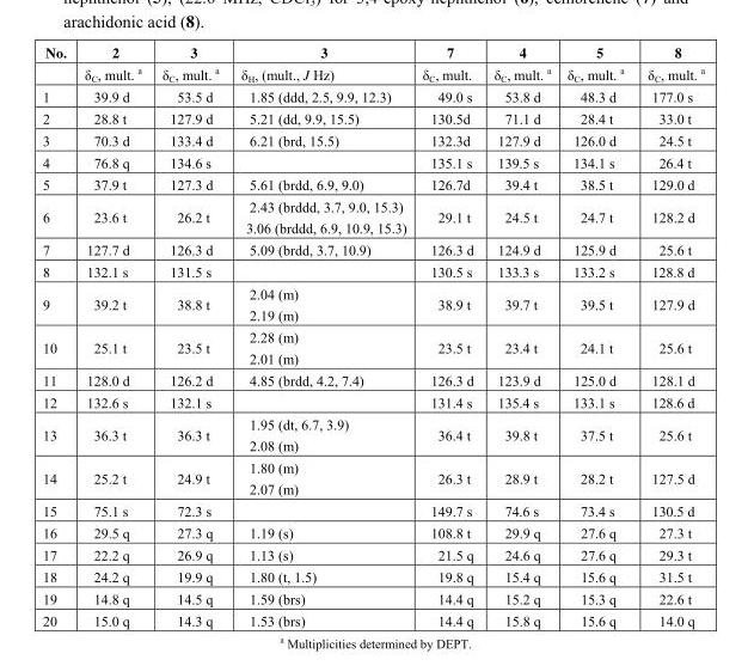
<table><thead><tr><td rowspan="2">No.</td><td rowspan="2">2 δC, mult. a</td><td rowspan="2">3 δC, mult. a</td><td rowspan="2">3 δH, (mult., J Hz)</td><td rowspan="2">7 δC, mult.</td><td rowspan="2">4 δC, mult. a</td><td rowspan="2">5 δC, mult. a</td><td rowspan="2">8 δC, mult. a</td></tr><tr></tr></thead><tbody><tr><td>1</td><td>39.9 d</td><td>53.5 d</td><td>1.85 (ddd, 2.5, 9.9, 12.3)</td><td>49.0 s</td><td>53.8 d</td><td>48.3 d</td><td>177.0 s</td></tr><tr><td>2</td><td>28.8 t</td><td>127.9 d</td><td>5.21 (dd, 9.9, 15.5)</td><td>130.5d</td><td>71.1 d</td><td>28.4 t</td><td>33.0 t</td></tr><tr><td>3</td><td>70.3 d</td><td>133.4 d</td><td>6.21 (brd, 15.5)</td><td>132.3d</td><td>127.9 d</td><td>126.0 d</td><td>24.5 t</td></tr><tr><td>4</td><td>76.8 q</td><td>134.6 s</td><td></td><td>135.1 s</td><td>139.5 s</td><td>134.1 s</td><td>26.4 t</td></tr><tr><td>5</td><td>37.9 t</td><td>127.3 d</td><td>5.61 (brdd, 6.9, 9.0)</td><td>126.7d</td><td>39.4 t</td><td>38.5 t</td><td>129.0 d</td></tr><tr><td>6</td><td>23.6 t</td><td>26.2 t</td><td>2.43 (brddd, 3.7, 9.0, 15.3) 3.06 (brddd, 6.9, 10.9, 15.3)</td><td>29.1 t</td><td>24.5 t</td><td>24.7 t</td><td>128.2 d</td></tr><tr><td>7</td><td>127.7 d</td><td>126.3 d</td><td>5.09 (brdd, 3.7, 10.9)</td><td>126.3 d</td><td>124.9 d</td><td>125.9 d</td><td>25.6 t</td></tr><tr><td>8</td><td>132.1 s</td><td>131.5 s</td><td></td><td>130.5 s</td><td>133.3 s</td><td>133.2 s</td><td>128.8 d</td></tr><tr><td>9</td><td>39.2 t</td><td>38.8 t</td><td>2.04 (m) 2.19 (m)</td><td>38.9 t</td><td>39.7 t</td><td>39.5 t</td><td>127.9 d</td></tr><tr><td>10</td><td>25.1 t</td><td>23.5 t</td><td>2.28 (m) 2.01 (m)</td><td>23.5 t</td><td>23.4 t</td><td>24.1 t</td><td>25.6 t</td></tr><tr><td>11</td><td>128.0 d</td><td>126.2 d</td><td>4.85 (brdd, 4.2, 7.4)</td><td>126.3 d</td><td>123.9 d</td><td>125.0 d</td><td>128.1 d</td></tr><tr><td>12</td><td>132.6 s</td><td>132.1 s</td><td></td><td>131.4 s</td><td>135.4 s</td><td>133.1 s</td><td>128.6 d</td></tr><tr><td>13</td><td>36.3 t</td><td>36.3 t</td><td>1.95 (dt, 6.7, 3.9) 2.08 (m)</td><td>36.4 t</td><td>39.8 t</td><td>37.5 t</td><td>25.6 t</td></tr><tr><td>14</td><td>25.2 t</td><td>24.9 t</td><td>1.80 (m) 2.07 (m)</td><td>26.3 t</td><td>28.9 t</td><td>28.2 t</td><td>127.5 d</td></tr><tr><td>15</td><td>75.1 s</td><td>72.3 s</td><td></td><td>149.7 s</td><td>74.6 s</td><td>73.4 s</td><td>130.5 d</td></tr><tr><td>16</td><td>29.5 q</td><td>27.3 q</td><td>1.19 (s)</td><td>108.8 t</td><td>29.9 q</td><td>27.6 q</td><td>27.3 t</td></tr><tr><td>17</td><td>22.2 q</td><td>26.9 q</td><td>1.13 (s)</td><td>21.5 q</td><td>24.6 q</td><td>27.6 q</td><td>29.3 t</td></tr><tr><td>18</td><td>24.2 q</td><td>19.9 q</td><td>1.80 (t, 1.5)</td><td>19.8 q</td><td>15.4 q</td><td>15.6 q</td><td>31.5 t</td></tr><tr><td>19</td><td>14.8 q</td><td>14.5 q</td><td>1.59 (brs)</td><td>14.4 q</td><td>15.2 q</td><td>15.3 q</td><td>22.6 t</td></tr><tr><td>20</td><td>15.0 q</td><td>14.3 q</td><td>1.53 (brs)</td><td>14.4 q</td><td>15.8 q</td><td>15.6 q</td><td>14.0 q</td></tr></tbody></table>